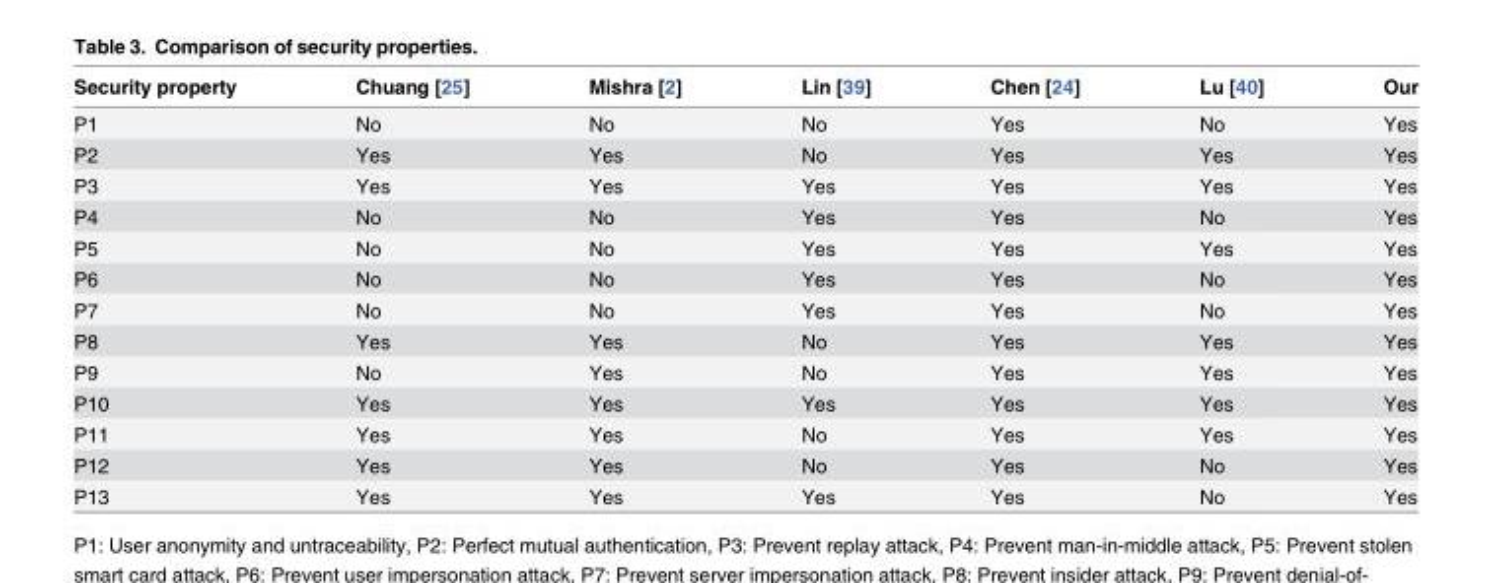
<table><thead><tr><td>Security property</td><td>Chuang [25]</td><td>Mishra [2]</td><td>Lin [39]</td><td>Chen [24]</td><td>Lu [40]</td><td>Our</td></tr></thead><tbody><tr><td>P1</td><td>No</td><td>No</td><td>No</td><td>Yes</td><td>No</td><td>Yes</td></tr><tr><td>P2</td><td>Yes</td><td>Yes</td><td>No</td><td>Yes</td><td>Yes</td><td>Yes</td></tr><tr><td>P3</td><td>Yes</td><td>Yes</td><td>Yes</td><td>Yes</td><td>Yes</td><td>Yes</td></tr><tr><td>P4</td><td>No</td><td>No</td><td>Yes</td><td>Yes</td><td>No</td><td>Yes</td></tr><tr><td>P5</td><td>No</td><td>No</td><td>Yes</td><td>Yes</td><td>Yes</td><td>Yes</td></tr><tr><td>P6</td><td>No</td><td>No</td><td>Yes</td><td>Yes</td><td>No</td><td>Yes</td></tr><tr><td>P7</td><td>No</td><td>No</td><td>Yes</td><td>Yes</td><td>No</td><td>Yes</td></tr><tr><td>P8</td><td>Yes</td><td>Yes</td><td>No</td><td>Yes</td><td>Yes</td><td>Yes</td></tr><tr><td>P9</td><td>No</td><td>Yes</td><td>No</td><td>Yes</td><td>Yes</td><td>Yes</td></tr><tr><td>P10</td><td>Yes</td><td>Yes</td><td>Yes</td><td>Yes</td><td>Yes</td><td>Yes</td></tr><tr><td>P11</td><td>Yes</td><td>Yes</td><td>No</td><td>Yes</td><td>Yes</td><td>Yes</td></tr><tr><td>P12</td><td>Yes</td><td>Yes</td><td>No</td><td>Yes</td><td>No</td><td>Yes</td></tr><tr><td>P13</td><td>Yes</td><td>Yes</td><td>Yes</td><td>Yes</td><td>No</td><td>Yes</td></tr></tbody></table>